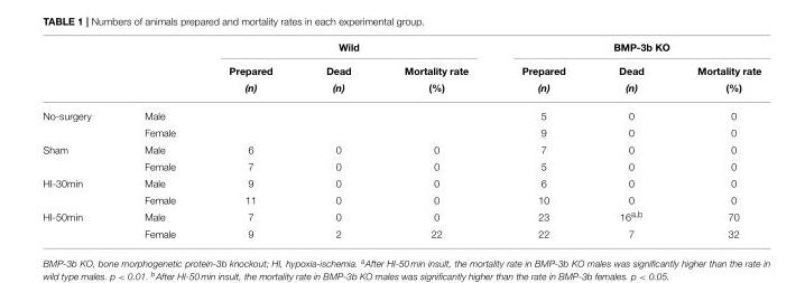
<table><thead><tr><td rowspan="3"></td><td rowspan="3"></td><td colspan="3">Wild</td><td colspan="3">BMP-3b KO</td></tr><tr><td rowspan="2">Prepared (n)</td><td rowspan="2">Dead (n)</td><td rowspan="2">Mortality rate (%)</td><td rowspan="2">Prepared (n)</td><td rowspan="2">Dead (n)</td><td rowspan="2">Mortality rate (%)</td></tr><tr></tr></thead><tbody><tr><td rowspan="2">No-surgery</td><td>Male</td><td></td><td></td><td></td><td>5</td><td>0</td><td>0</td></tr><tr><td>Female</td><td></td><td></td><td></td><td>9</td><td>0</td><td>0</td></tr><tr><td rowspan="2">Sham</td><td>Male</td><td>6</td><td>0</td><td>0</td><td>7</td><td>0</td><td>0</td></tr><tr><td>Female</td><td>7</td><td>0</td><td>0</td><td>5</td><td>0</td><td>0</td></tr><tr><td rowspan="2">HI-30min</td><td>Male</td><td>9</td><td>0</td><td>0</td><td>6</td><td>0</td><td>0</td></tr><tr><td>Female</td><td>11</td><td>0</td><td>0</td><td>10</td><td>0</td><td>0</td></tr><tr><td rowspan="2">HI-50min</td><td>Male</td><td>7</td><td>0</td><td>0</td><td>23</td><td>16<sup>a,b</sup></td><td>70</td></tr><tr><td>Female</td><td>9</td><td>2</td><td>22</td><td>22</td><td>7</td><td>32</td></tr></tbody></table>